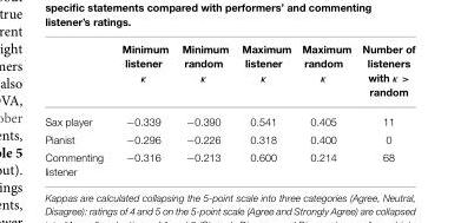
<table><thead><tr><td></td><td>Minimum listener κ</td><td>Minimum random κ</td><td>Maximum listener κ</td><td>Maximum random κ</td><td>Number of listeners with κ &gt; random</td></tr></thead><tbody><tr><td>Sax player</td><td>−0.339</td><td>−0.390</td><td>0.541</td><td>0.405</td><td>11</td></tr><tr><td>Pianist</td><td>−0.296</td><td>−0.226</td><td>0.318</td><td>0.400</td><td>0</td></tr><tr><td>Commenting listener</td><td>−0.316</td><td>−0.213</td><td>0.600</td><td>0.214</td><td>68</td></tr></tbody></table>